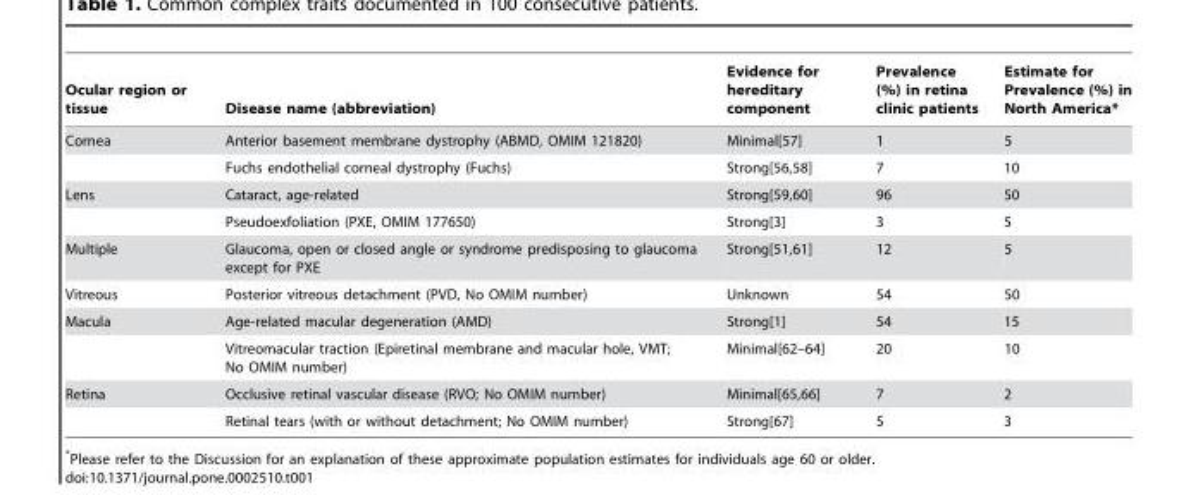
<table><thead><tr><td>Ocular region or tissue</td><td>Disease name (abbreviation)</td><td>Evidence for hereditary component</td><td>Prevalence (%) in retina clinic patients</td><td>Estimate for Prevalence (%) in North America*</td></tr></thead><tbody><tr><td rowspan="2">Cornea</td><td>Anterior basement membrane dystrophy (ABMD, OMIM 121820)</td><td>Minimal[57]</td><td>1</td><td>5</td></tr><tr><td>Fuchs endothelial corneal dystrophy (Fuchs)</td><td>Strong[56,58]</td><td>7</td><td>10</td></tr><tr><td rowspan="2">Lens</td><td>Cataract, age-related</td><td>Strong[59,60]</td><td>96</td><td>50</td></tr><tr><td>Pseudoexfoliation (PXE, OMIM 177650)</td><td>Strong[3]</td><td>3</td><td>5</td></tr><tr><td>Multiple</td><td>Glaucoma, open or closed angle or syndrome predisposing to glaucoma except for PXE</td><td>Strong[51,61]</td><td>12</td><td>5</td></tr><tr><td>Vitreous</td><td>Posterior vitreous detachment (PVD, No OMIM number)</td><td>Unknown</td><td>54</td><td>50</td></tr><tr><td rowspan="2">Macula</td><td>Age-related macular degeneration (AMD)</td><td>Strong[1]</td><td>54</td><td>15</td></tr><tr><td>Vitreomacular traction (Epiretinal membrane and macular hole, VMT; No OMIM number)</td><td>Minimal[62–64]</td><td>20</td><td>10</td></tr><tr><td rowspan="2">Retina</td><td>Occlusive retinal vascular disease (RVO; No OMIM number)</td><td>Minimal[65,66]</td><td>7</td><td>2</td></tr><tr><td>Retinal tears (with or without detachment; No OMIM number)</td><td>Strong[67]</td><td>5</td><td>3</td></tr></tbody></table>